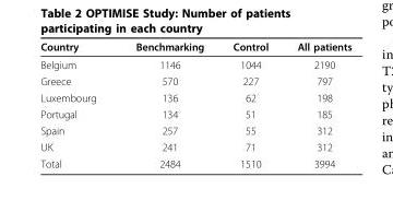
<table><thead><tr><td>Country</td><td>Benchmarking</td><td>Control</td><td>All patients</td></tr></thead><tbody><tr><td>Belgium</td><td>1146</td><td>1044</td><td>2190</td></tr><tr><td>Greece</td><td>570</td><td>227</td><td>797</td></tr><tr><td>Luxembourg</td><td>136</td><td>62</td><td>198</td></tr><tr><td>Portugal</td><td>134</td><td>51</td><td>185</td></tr><tr><td>Spain</td><td>257</td><td>55</td><td>312</td></tr><tr><td>UK</td><td>241</td><td>71</td><td>312</td></tr><tr><td>Total</td><td>2484</td><td>1510</td><td>3994</td></tr></tbody></table>